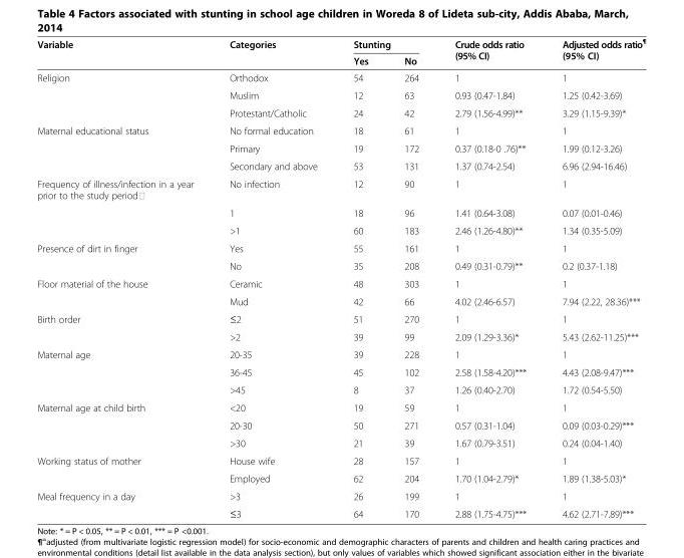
<table><thead><tr><td rowspan="2">Variable</td><td rowspan="2">Categories</td><td colspan="2">Stunting</td><td rowspan="2">Crude odds ratio (95% CI)</td><td rowspan="2">Adjusted odds ratio<sup>¶</sup> (95% CI)</td></tr><tr><td>Yes</td><td>No</td></tr></thead><tbody><tr><td rowspan="3">Religion</td><td>Orthodox</td><td>54</td><td>264</td><td>1</td><td>1</td></tr><tr><td>Muslim</td><td>12</td><td>63</td><td>0.93 (0.47-1.84)</td><td>1.25 (0.42-3.69)</td></tr><tr><td>Protestant/Catholic</td><td>24</td><td>42</td><td>2.79 (1.56-4.99)**</td><td>3.29 (1.15-9.39)*</td></tr><tr><td rowspan="3">Maternal educational status</td><td>No formal education</td><td>18</td><td>61</td><td>1</td><td>1</td></tr><tr><td>Primary</td><td>19</td><td>172</td><td>0.37 (0.18-0 .76)**</td><td>1.99 (0.12-3.26)</td></tr><tr><td>Secondary and above</td><td>53</td><td>131</td><td>1.37 (0.74-2.54)</td><td>6.96 (2.94-16.46)</td></tr><tr><td rowspan="3">Frequency of illness/infection in a year prior to the study period⁯</td><td>No infection</td><td>12</td><td>90</td><td>1</td><td>1</td></tr><tr><td>1</td><td>18</td><td>96</td><td>1.41 (0.64-3.08)</td><td>0.07 (0.01-0.46)</td></tr><tr><td>&gt;1</td><td>60</td><td>183</td><td>2.46 (1.26-4.80)**</td><td>1.34 (0.35-5.09)</td></tr><tr><td rowspan="2">Presence of dirt in finger</td><td>Yes</td><td>55</td><td>161</td><td>1</td><td>1</td></tr><tr><td>No</td><td>35</td><td>208</td><td>0.49 (0.31-0.79)**</td><td>0.2 (0.37-1.18)</td></tr><tr><td rowspan="2">Floor material of the house</td><td>Ceramic</td><td>48</td><td>303</td><td>1</td><td>1</td></tr><tr><td>Mud</td><td>42</td><td>66</td><td>4.02 (2.46-6.57)</td><td>7.94 (2.22, 28.36)***</td></tr><tr><td rowspan="2">Birth order</td><td>≤2</td><td>51</td><td>270</td><td>1</td><td>1</td></tr><tr><td>&gt;2</td><td>39</td><td>99</td><td>2.09 (1.29-3.36)*</td><td>5.43 (2.62-11.25)***</td></tr><tr><td rowspan="3">Maternal age</td><td>20-35</td><td>39</td><td>228</td><td>1</td><td>1</td></tr><tr><td>36-45</td><td>45</td><td>102</td><td>2.58 (1.58-4.20)***</td><td>4.43 (2.08-9.47)***</td></tr><tr><td>&gt;45</td><td>8</td><td>37</td><td>1.26 (0.40-2.70)</td><td>1.72 (0.54-5.50)</td></tr><tr><td rowspan="3">Maternal age at child birth</td><td>&lt;20</td><td>19</td><td>59</td><td>1</td><td>1</td></tr><tr><td>20-30</td><td>50</td><td>271</td><td>0.57 (0.31-1.04)</td><td>0.09 (0.03-0.29)***</td></tr><tr><td>&gt;30</td><td>21</td><td>39</td><td>1.67 (0.79-3.51)</td><td>0.24 (0.04-1.40)</td></tr><tr><td rowspan="2">Working status of mother</td><td>House wife</td><td>28</td><td>157</td><td>1</td><td>1</td></tr><tr><td>Employed</td><td>62</td><td>204</td><td>1.70 (1.04-2.79)*</td><td>1.89 (1.38-5.03)*</td></tr><tr><td rowspan="2">Meal frequency in a day</td><td>&gt;3</td><td>26</td><td>199</td><td>1</td><td>1</td></tr><tr><td>≤3</td><td>64</td><td>170</td><td>2.88 (1.75-4.75)***</td><td>4.62 (2.71-7.89)***</td></tr></tbody></table>